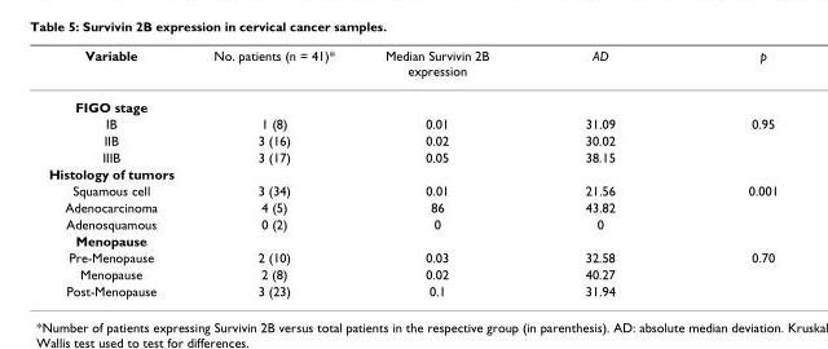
<table><thead><tr><td>Variable</td><td>No. patients (n = 41)*</td><td>Median Survivin 2B expression</td><td>AD</td><td>p</td></tr></thead><tbody><tr><td colspan="5">FIGO stage</td></tr><tr><td>IB</td><td>1 (8)</td><td>0.01</td><td>31.09</td><td>0.95</td></tr><tr><td>IIB</td><td>3 (16)</td><td>0.02</td><td>30.02</td><td></td></tr><tr><td>IIIB</td><td>3 (17)</td><td>0.05</td><td>38.15</td><td></td></tr><tr><td colspan="5">Histology of tumors</td></tr><tr><td>Squamous cell</td><td>3 (34)</td><td>0.01</td><td>21.56</td><td>0.001</td></tr><tr><td>Adenocarcinoma</td><td>4 (5)</td><td>86</td><td>43.82</td><td></td></tr><tr><td>Adenosquamous</td><td>0 (2)</td><td>0</td><td>0</td><td></td></tr><tr><td colspan="5">Menopause</td></tr><tr><td>Pre-Menopause</td><td>2 (10)</td><td>0.03</td><td>32.58</td><td>0.70</td></tr><tr><td>Menopause</td><td>2 (8)</td><td>0.02</td><td>40.27</td><td></td></tr><tr><td>Post-Menopause</td><td>3 (23)</td><td>0.1</td><td>31.94</td><td></td></tr></tbody></table>